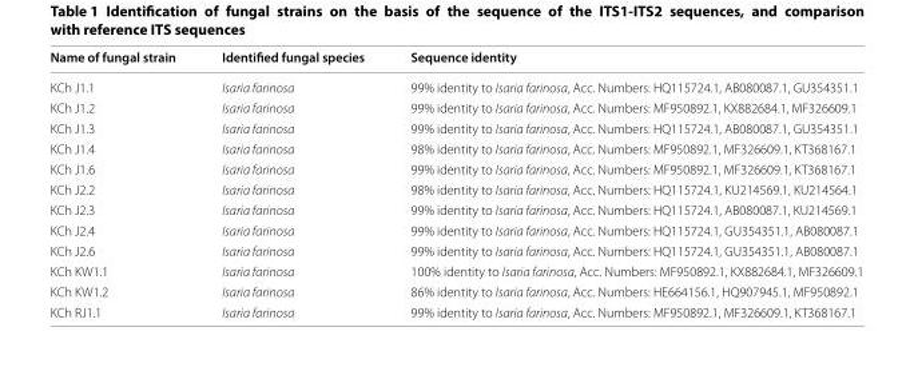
<table><thead><tr><td>Name of fungal strain</td><td>Identified fungal species</td><td>Sequence identity</td></tr></thead><tbody><tr><td>KCh J1.1</td><td>Isaria farinosa</td><td>99% identity to Isaria farinosa, Acc. Numbers: HQ115724.1, AB080087.1, GU354351.1</td></tr><tr><td>KCh J1.2</td><td>Isaria farinosa</td><td>99% identity to Isaria farinosa, Acc. Numbers: MF950892.1, KX882684.1, MF326609.1</td></tr><tr><td>KCh J1.3</td><td>Isaria farinosa</td><td>99% identity to Isaria farinosa, Acc. Numbers: HQ115724.1, AB080087.1, GU354351.1</td></tr><tr><td>KCh J1.4</td><td>Isaria farinosa</td><td>98% identity to Isaria farinosa, Acc. Numbers: MF950892.1, MF326609.1, KT368167.1</td></tr><tr><td>KCh J1.6</td><td>Isaria farinosa</td><td>99% identity to Isaria farinosa, Acc. Numbers: MF950892.1, MF326609.1, KT368167.1</td></tr><tr><td>KCh J2.2</td><td>Isaria farinosa</td><td>98% identity to Isaria farinosa, Acc. Numbers: HQ115724.1, KU214569.1, KU214564.1</td></tr><tr><td>KCh J2.3</td><td>Isaria farinosa</td><td>99% identity to Isaria farinosa, Acc. Numbers: HQ115724.1, AB080087.1, KU214569.1</td></tr><tr><td>KCh J2.4</td><td>Isaria farinosa</td><td>99% identity to Isaria farinosa, Acc. Numbers: HQ115724.1, GU354351.1, AB080087.1</td></tr><tr><td>KCh J2.6</td><td>Isaria farinosa</td><td>99% identity to Isaria farinosa, Acc. Numbers: HQ115724.1, GU354351.1, AB080087.1</td></tr><tr><td>KCh KW1.1</td><td>Isaria farinosa</td><td>100% identity to Isaria farinosa, Acc. Numbers: MF950892.1, KX882684.1, MF326609.1</td></tr><tr><td>KCh KW1.2</td><td>Isaria farinosa</td><td>86% identity to Isaria farinosa, Acc. Numbers: HE664156.1, HQ907945.1, MF950892.1</td></tr><tr><td>KCh RJ1.1</td><td>Isaria farinosa</td><td>99% identity to Isaria farinosa, Acc. Numbers: MF950892.1, MF326609.1, KT368167.1</td></tr></tbody></table>